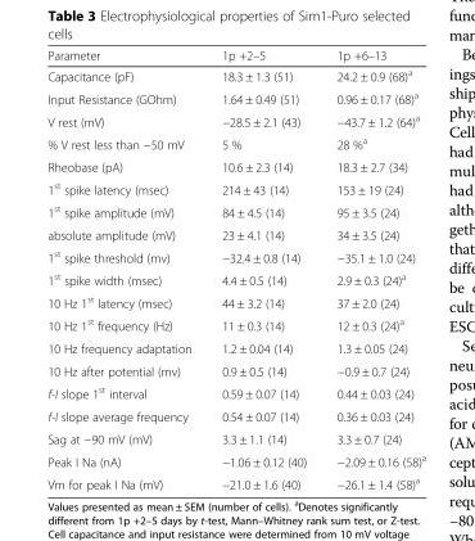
<table><thead><tr><td>Parameter</td><td>1p +2–5</td><td>1p +6–13</td></tr></thead><tbody><tr><td>Capacitance (pF)</td><td>18.3 ± 1.3 (51)</td><td>24.2 ± 0.9 (68)<sup>a</sup></td></tr><tr><td>Input Resistance (GOhm)</td><td>1.64 ± 0.49 (51)</td><td>0.96 ± 0.17 (68)<sup>a</sup></td></tr><tr><td>V rest (mV)</td><td>−28.5 ± 2.1 (43)</td><td>−43.7 ± 1.2 (64)<sup>a</sup></td></tr><tr><td>% V rest less than −50 mV</td><td>5 %</td><td>28 %<sup>a</sup></td></tr><tr><td>Rheobase (pA)</td><td>10.6 ± 2.3 (14)</td><td>18.3 ± 2.7 (34)</td></tr><tr><td>1<sup>st</sup> spike latency (msec)</td><td>214 ± 43 (14)</td><td>153 ± 19 (24)</td></tr><tr><td>1<sup>st</sup> spike amplitude (mV)</td><td>84 ± 4.5 (14)</td><td>95 ± 3.5 (24)</td></tr><tr><td>absolute amplitude (mV)</td><td>23 ± 4.1 (14)</td><td>34 ± 3.5 (24)</td></tr><tr><td>1<sup>st</sup> spike threshold (mv)</td><td>−32.4 ± 0.8 (14)</td><td>−35.1 ± 1.0 (24)</td></tr><tr><td>1<sup>st</sup> spike width (msec)</td><td>4.4 ± 0.5 (14)</td><td>2.9 ± 0.3 (24)<sup>a</sup></td></tr><tr><td>10 Hz 1<sup>st</sup> latency (msec)</td><td>44 ± 3.2 (14)</td><td>37 ± 2.0 (24)</td></tr><tr><td>10 Hz 1<sup>st</sup> frequency (Hz)</td><td>11 ± 0.3 (14)</td><td>12 ± 0.3 (24)<sup>a</sup></td></tr><tr><td>10 Hz frequency adaptation</td><td>1.2 ± 0.04 (14)</td><td>1.3 ± 0.05 (24)</td></tr><tr><td>10 Hz after potential (mv)</td><td>0.9 ± 0.5 (14)</td><td>−0.9 ± 0.7 (24)</td></tr><tr><td>f-I slope 1<sup>st</sup> interval</td><td>0.59 ± 0.07 (14)</td><td>0.44 ± 0.03 (24)</td></tr><tr><td>f-I slope average frequency</td><td>0.54 ± 0.07 (14)</td><td>0.36 ± 0.03 (24)</td></tr><tr><td>Sag at −90 mV (mV)</td><td>3.3 ± 1.1 (14)</td><td>3.3 ± 0.7 (24)</td></tr><tr><td>Peak I Na (nA)</td><td>−1.06 ± 0.12 (40)</td><td>−2.09 ± 0.16 (58)<sup>a</sup></td></tr><tr><td>Vm for peak I Na (mV)</td><td>−21.0 ± 1.6 (40)</td><td>−26.1 ± 1.4 (58)<sup>a</sup></td></tr></tbody></table>